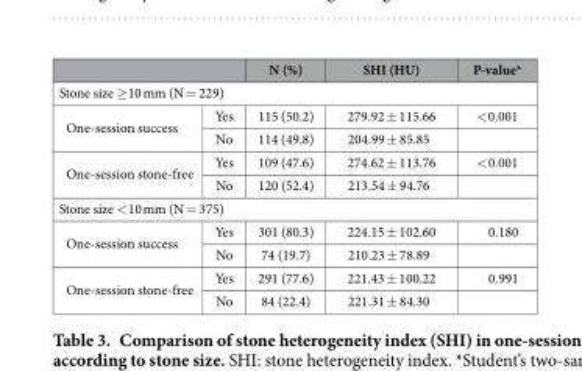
<table><thead><tr><td></td><td></td><td>N (%)</td><td>SHI (HU)</td><td>P-value*</td></tr></thead><tbody><tr><td colspan="5">Stone size ≥ 10 mm (N = 229)</td></tr><tr><td rowspan="2">One-session success</td><td>Yes</td><td>115 (50.2)</td><td>279.92 ± 115.66</td><td>&lt; 0.001</td></tr><tr><td>No</td><td>114 (49.8)</td><td>204.99 ± 85.85</td><td></td></tr><tr><td rowspan="2">One-session stone-free</td><td>Yes</td><td>109 (47.6)</td><td>274.62 ± 113.76</td><td>&lt; 0.001</td></tr><tr><td>No</td><td>120 (52.4)</td><td>213.54 ± 94.76</td><td></td></tr><tr><td colspan="5">Stone size &lt; 10 mm (N = 375)</td></tr><tr><td rowspan="2">One-session success</td><td>Yes</td><td>301 (80.3)</td><td>224.15 ± 102.60</td><td>0.180</td></tr><tr><td>No</td><td>74 (19.7)</td><td>210.23 ± 78.89</td><td></td></tr><tr><td rowspan="2">One-session stone-free</td><td>Yes</td><td>291 (77.6)</td><td>221.43 ± 100.22</td><td>0.991</td></tr><tr><td>No</td><td>84 (22.4)</td><td>221.31 ± 84.30</td><td></td></tr></tbody></table>